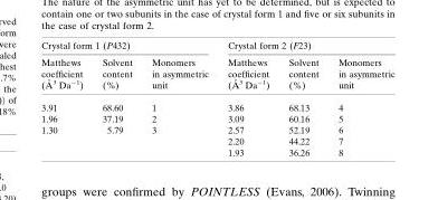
<table><thead><tr><td colspan="3">Crystal form 1 (P432)</td><td colspan="3">Crystal form 2 (F23)</td></tr><tr><td>Matthews coefficient (A˚ 3 Da�1)</td><td>Solvent content (%)</td><td>Monomers in asymmetric unit</td><td>Matthews coefficient (A˚ 3 Da�1)</td><td>Solvent content (%)</td><td>Monomers in asymmetric unit</td></tr></thead><tbody><tr><td>3.91</td><td>68.60</td><td>1</td><td>3.86</td><td>68.13</td><td>4</td></tr><tr><td>1.96</td><td>37.19</td><td>2</td><td>3.09</td><td>60.16</td><td>5</td></tr><tr><td rowspan="3">1.30</td><td>5.79</td><td>3</td><td>2.57</td><td>52.19</td><td>6</td></tr><tr><td></td><td></td><td>2.20</td><td>44.22</td><td>7</td></tr><tr><td></td><td></td><td>1.93</td><td>36.26</td><td>8</td></tr></tbody></table>